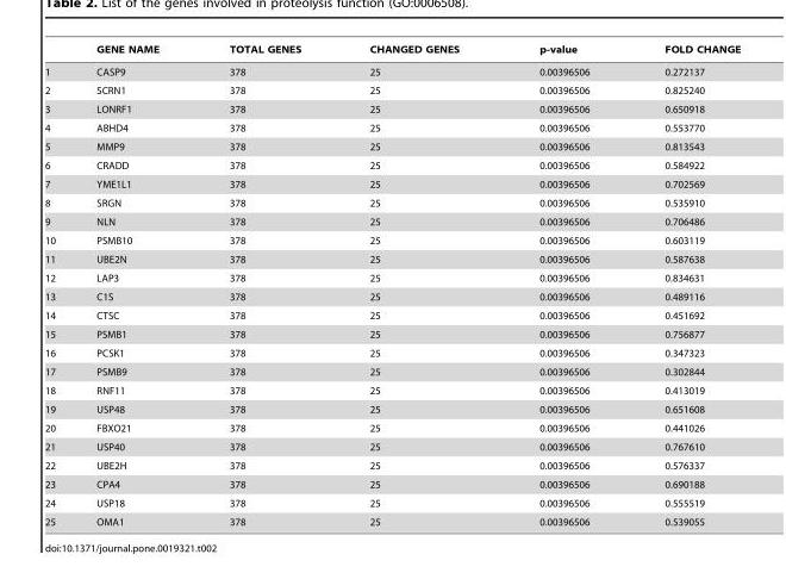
<table><thead><tr><td></td><td>GENE NAME</td><td>TOTAL GENES</td><td>CHANGED GENES</td><td>p-value</td><td>FOLD CHANGE</td></tr></thead><tbody><tr><td>1</td><td>CASP9</td><td>378</td><td>25</td><td>0.00396506</td><td>0.272137</td></tr><tr><td>2</td><td>SCRN1</td><td>378</td><td>25</td><td>0.00396506</td><td>0.825240</td></tr><tr><td>3</td><td>LONRF1</td><td>378</td><td>25</td><td>0.00396506</td><td>0.650918</td></tr><tr><td>4</td><td>ABHD4</td><td>378</td><td>25</td><td>0.00396506</td><td>0.553770</td></tr><tr><td>5</td><td>MMP9</td><td>378</td><td>25</td><td>0.00396506</td><td>0.813543</td></tr><tr><td>6</td><td>CRADD</td><td>378</td><td>25</td><td>0.00396506</td><td>0.584922</td></tr><tr><td>7</td><td>YME1L1</td><td>378</td><td>25</td><td>0.00396506</td><td>0.702569</td></tr><tr><td>8</td><td>SRGN</td><td>378</td><td>25</td><td>0.00396506</td><td>0.535910</td></tr><tr><td>9</td><td>NLN</td><td>378</td><td>25</td><td>0.00396506</td><td>0.706486</td></tr><tr><td>10</td><td>PSMB10</td><td>378</td><td>25</td><td>0.00396506</td><td>0.603119</td></tr><tr><td>11</td><td>UBE2N</td><td>378</td><td>25</td><td>0.00396506</td><td>0.587638</td></tr><tr><td>12</td><td>LAP3</td><td>378</td><td>25</td><td>0.00396506</td><td>0.834631</td></tr><tr><td>13</td><td>C1S</td><td>378</td><td>25</td><td>0.00396506</td><td>0.489116</td></tr><tr><td>14</td><td>CTSC</td><td>378</td><td>25</td><td>0.00396506</td><td>0.451692</td></tr><tr><td>15</td><td>PSMB1</td><td>378</td><td>25</td><td>0.00396506</td><td>0.756877</td></tr><tr><td>16</td><td>PCSK1</td><td>378</td><td>25</td><td>0.00396506</td><td>0.347323</td></tr><tr><td>17</td><td>PSMB9</td><td>378</td><td>25</td><td>0.00396506</td><td>0.302844</td></tr><tr><td>18</td><td>RNF11</td><td>378</td><td>25</td><td>0.00396506</td><td>0.413019</td></tr><tr><td>19</td><td>USP48</td><td>378</td><td>25</td><td>0.00396506</td><td>0.651608</td></tr><tr><td>20</td><td>FBXO21</td><td>378</td><td>25</td><td>0.00396506</td><td>0.441026</td></tr><tr><td>21</td><td>USP40</td><td>378</td><td>25</td><td>0.00396506</td><td>0.767610</td></tr><tr><td>22</td><td>UBE2H</td><td>378</td><td>25</td><td>0.00396506</td><td>0.576337</td></tr><tr><td>23</td><td>CPA4</td><td>378</td><td>25</td><td>0.00396506</td><td>0.690188</td></tr><tr><td>24</td><td>USP18</td><td>378</td><td>25</td><td>0.00396506</td><td>0.555519</td></tr><tr><td>25</td><td>OMA1</td><td>378</td><td>25</td><td>0.00396506</td><td>0.539055</td></tr></tbody></table>